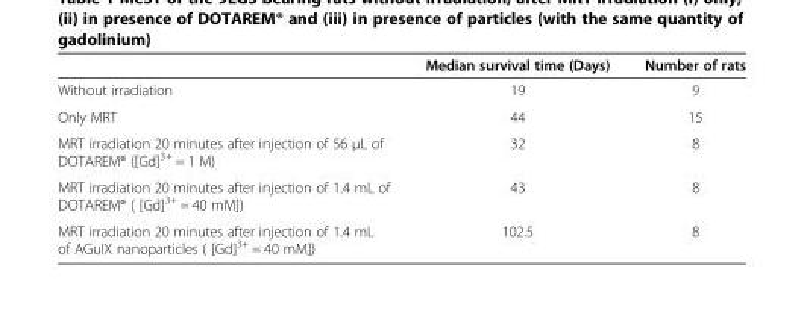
<table><thead><tr><td></td><td>Median survival time (Days)</td><td>Number of rats</td></tr></thead><tbody><tr><td>Without irradiation</td><td>19</td><td>9</td></tr><tr><td>Only MRT</td><td>44</td><td>15</td></tr><tr><td>MRT irradiation 20 minutes after injection of 56 μL of DOTAREM® ([Gd]<sup>3+</sup> = 1 M)</td><td>32</td><td>8</td></tr><tr><td>MRT irradiation 20 minutes after injection of 1.4 mL of DOTAREM® ( [Gd]<sup>3+</sup> = 40 mM])</td><td>43</td><td>8</td></tr><tr><td>MRT irradiation 20 minutes after injection of 1.4 mL of AGuIX nanoparticles ( [Gd]<sup>3+</sup> = 40 mM])</td><td>102.5</td><td>8</td></tr></tbody></table>